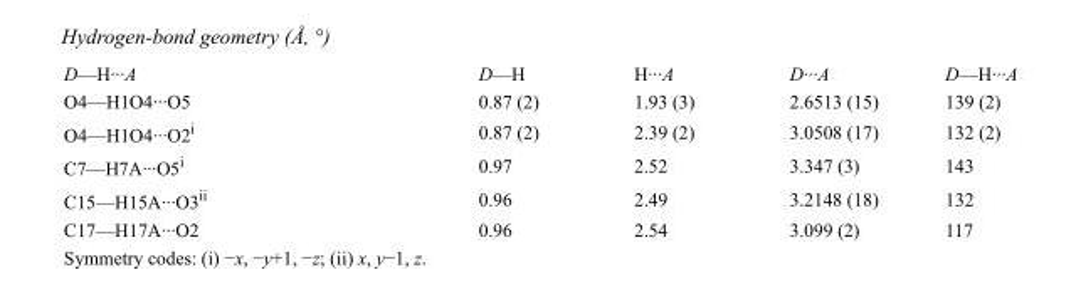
<table><tbody><tr><td>D—H···A</td><td>D—H</td><td>H···A</td><td>D···A</td><td>D—H···A</td></tr><tr><td>O4—H1O4···O5</td><td>0.87 (2)</td><td>1.93 (3)</td><td>2.6513 (15)</td><td>139 (2)</td></tr><tr><td>O4—H1O4···O2<sup>i</sup></td><td>0.87 (2)</td><td>2.39 (2)</td><td>3.0508 (17)</td><td>132 (2)</td></tr><tr><td>C7—H7A···O5<sup>i</sup></td><td>0.97</td><td>2.52</td><td>3.347 (3)</td><td>143</td></tr><tr><td>C15—H15A···O3<sup>ii</sup></td><td>0.96</td><td>2.49</td><td>3.2148 (18)</td><td>132</td></tr><tr><td>C17—H17A···O2</td><td>0.96</td><td>2.54</td><td>3.099 (2)</td><td>117</td></tr></tbody></table>